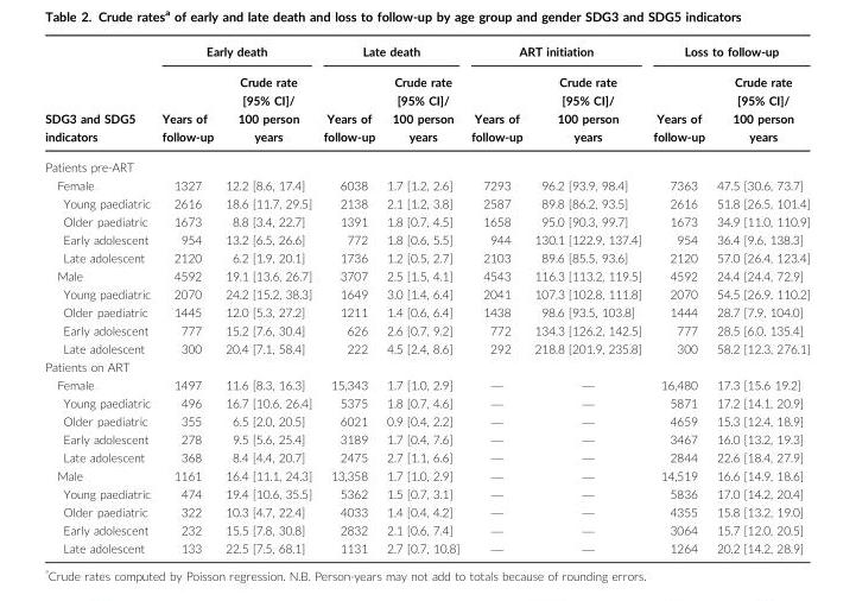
<table><thead><tr><td rowspan="2">SDG3 and SDG5 indicators</td><td colspan="2">Early death</td><td colspan="2">Late death</td><td colspan="2">ART initiation</td><td colspan="2">Loss to follow-up</td></tr><tr><td>Years of follow-up</td><td>Crude rate [95% CI]/ 100 person years</td><td>Years of follow-up</td><td>Crude rate [95% CI]/ 100 person years</td><td>Years of follow-up</td><td>Crude rate [95% CI]/ 100 person years</td><td>Years of follow-up</td><td>Crude rate [95% CI]/ 100 person years</td></tr></thead><tbody><tr><td colspan="9">Patients pre-ART</td></tr><tr><td>Female</td><td>1327</td><td>12.2 [8.6, 17.4]</td><td>6038</td><td>1.7 [1.2, 2.6]</td><td>7293</td><td>96.2 [93.9, 98.4]</td><td>7363</td><td>47.5 [30.6, 73.7]</td></tr><tr><td>Young paediatric</td><td>2616</td><td>18.6 [11.7, 29.5]</td><td>2138</td><td>2.1 [1.2, 3.8]</td><td>2587</td><td>89.8 [86.2, 93.5]</td><td>2616</td><td>51.8 [26.5, 101.4]</td></tr><tr><td>Older paediatric</td><td>1673</td><td>8.8 [3.4, 22.7]</td><td>1391</td><td>1.8 [0.7, 4.5]</td><td>1658</td><td>95.0 [90.3, 99.7]</td><td>1673</td><td>34.9 [11.0, 110.9]</td></tr><tr><td>Early adolescent</td><td>954</td><td>13.2 [6.5, 26.6]</td><td>772</td><td>1.8 [0.6, 5.5]</td><td>944</td><td>130.1 [122.9, 137.4]</td><td>954</td><td>36.4 [9.6, 138.3]</td></tr><tr><td>Late adolescent</td><td>2120</td><td>6.2 [1.9, 20.1]</td><td>1736</td><td>1.2 [0.5, 2.7]</td><td>2103</td><td>89.6 [85.5, 93.6]</td><td>2120</td><td>57.0 [26.4, 123.4]</td></tr><tr><td>Male</td><td>4592</td><td>19.1 [13.6, 26.7]</td><td>3707</td><td>2.5 [1.5, 4.1]</td><td>4543</td><td>116.3 [113.2, 119.5]</td><td>4592</td><td>24.4 [24.4, 72.9]</td></tr><tr><td>Young paediatric</td><td>2070</td><td>24.2 [15.2, 38.3]</td><td>1649</td><td>3.0 [1.4, 6.4]</td><td>2041</td><td>107.3 [102.8, 111.8]</td><td>2070</td><td>54.5 [26.9, 110.2]</td></tr><tr><td>Older paediatric</td><td>1445</td><td>12.0 [5.3, 27.2]</td><td>1211</td><td>1.4 [0.6, 6.4]</td><td>1438</td><td>98.6 [93.5, 103.8]</td><td>1444</td><td>28.7 [7.9, 104.0]</td></tr><tr><td>Early adolescent</td><td>777</td><td>15.2 [7.6, 30.4]</td><td>626</td><td>2.6 [0.7, 9.2]</td><td>772</td><td>134.3 [126.2, 142.5]</td><td>777</td><td>28.5 [6.0, 135.4]</td></tr><tr><td>Late adolescent</td><td>300</td><td>20.4 [7.1, 58.4]</td><td>222</td><td>4.5 [2.4, 8.6]</td><td>292</td><td>218.8 [201.9, 235.8]</td><td>300</td><td>58.2 [12.3, 276.1]</td></tr><tr><td colspan="9">Patients on ART</td></tr><tr><td>Female</td><td>1497</td><td>11.6 [8.3, 16.3]</td><td>15,343</td><td>1.7 [1.0, 2.9]</td><td>—</td><td>—</td><td>16,480</td><td>17.3 [15.6 19.2]</td></tr><tr><td>Young paediatric</td><td>496</td><td>16.7 [10.6, 26.4]</td><td>5375</td><td>1.8 [0.7, 4.6]</td><td>—</td><td>—</td><td>5871</td><td>17.2 [14.1, 20.9]</td></tr><tr><td>Older paediatric</td><td>355</td><td>6.5 [2.0, 20.5]</td><td>6021</td><td>0.9 [0.4, 2.2]</td><td>—</td><td>—</td><td>4659</td><td>15.3 [12.4, 18.9]</td></tr><tr><td>Early adolescent</td><td>278</td><td>9.5 [5.6, 25.4]</td><td>3189</td><td>1.7 [0.4, 7.6]</td><td>—</td><td>—</td><td>3467</td><td>16.0 [13.2, 19.3]</td></tr><tr><td>Late adolescent</td><td>368</td><td>8.4 [4.4, 20.7]</td><td>2475</td><td>2.7 [1.1, 6.6]</td><td>—</td><td>—</td><td>2844</td><td>22.6 [18.4, 27.9]</td></tr><tr><td>Male</td><td>1161</td><td>16.4 [11.1, 24.3]</td><td>13,358</td><td>1.7 [1.0, 2.9]</td><td>—</td><td>—</td><td>14,519</td><td>16.6 [14.9, 18.6]</td></tr><tr><td>Young paediatric</td><td>474</td><td>19.4 [10.6, 35.5]</td><td>5362</td><td>1.5 [0.7, 3.1]</td><td>—</td><td>—</td><td>5836</td><td>17.0 [14.2, 20.4]</td></tr><tr><td>Older paediatric</td><td>322</td><td>10.3 [4.7, 22.4]</td><td>4033</td><td>1.4 [0.4, 4.2]</td><td>—</td><td>—</td><td>4355</td><td>15.8 [13.2, 19.0]</td></tr><tr><td>Early adolescent</td><td>232</td><td>15.5 [7.8, 30.8]</td><td>2832</td><td>2.1 [0.6, 7.4]</td><td>—</td><td>—</td><td>3064</td><td>15.7 [12.0, 20.5]</td></tr><tr><td>Late adolescent</td><td>133</td><td>22.5 [7.5, 68.1]</td><td>1131</td><td>2.7 [0.7, 10.8]</td><td>—</td><td>—</td><td>1264</td><td>20.2 [14.2, 28.9]</td></tr></tbody></table>